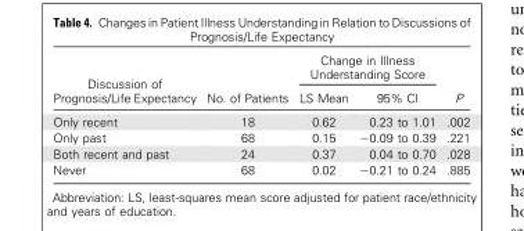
<table><thead><tr><td rowspan="2">Discussion of Prognosis/Life Expectancy</td><td rowspan="2">No. of Patients</td><td colspan="2">Change in Illness Understanding Score</td><td rowspan="2">P</td></tr><tr><td>LS Mean</td><td>95% CI</td></tr></thead><tbody><tr><td>Only recent</td><td>18</td><td>0.62</td><td>0.23 to 1.01</td><td>.002</td></tr><tr><td>Only past</td><td>68</td><td>0.15</td><td>−0.09 to 0.39</td><td>.221</td></tr><tr><td>Both recent and past</td><td>24</td><td>0.37</td><td>0.04 to 0.70</td><td>.028</td></tr><tr><td>Never</td><td>68</td><td>0.02</td><td>−0.21 to 0.24</td><td>.885</td></tr></tbody></table>